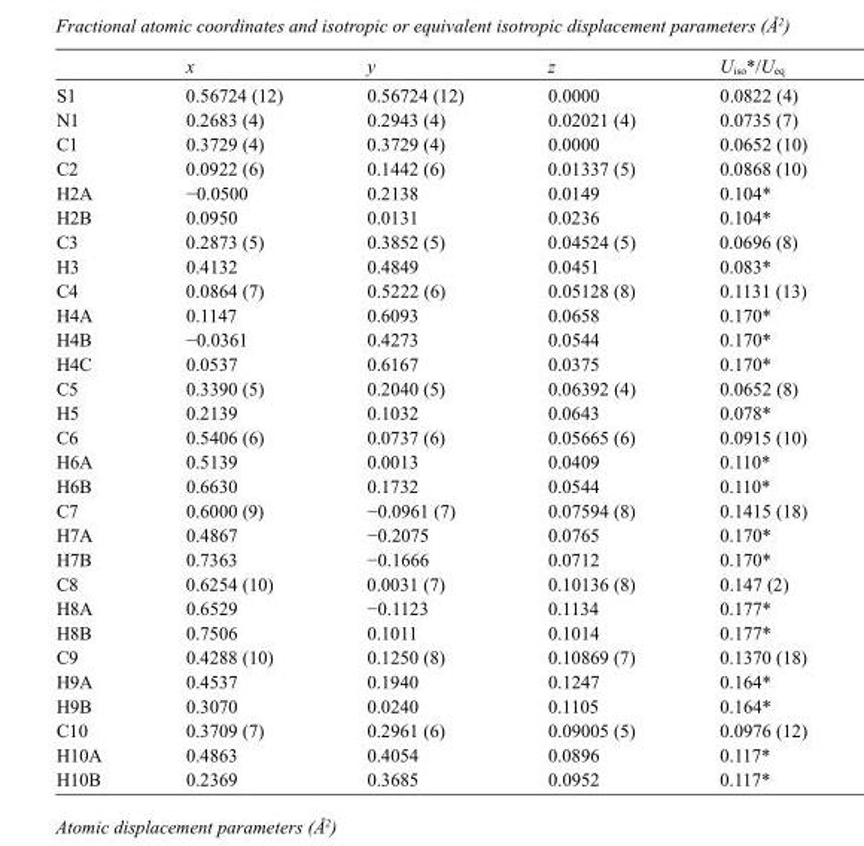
<table><thead><tr><td></td><td>x</td><td>y</td><td>z</td><td>U<sub>iso</sub>*/U<sub>eq</sub></td></tr></thead><tbody><tr><td>S1</td><td>0.56724 (12)</td><td>0.56724 (12)</td><td>0.0000</td><td>0.0822 (4)</td></tr><tr><td>N1</td><td>0.2683 (4)</td><td>0.2943 (4)</td><td>0.02021 (4)</td><td>0.0735 (7)</td></tr><tr><td>C1</td><td>0.3729 (4)</td><td>0.3729 (4)</td><td>0.0000</td><td>0.0652 (10)</td></tr><tr><td>C2</td><td>0.0922 (6)</td><td>0.1442 (6)</td><td>0.01337 (5)</td><td>0.0868 (10)</td></tr><tr><td>H2A</td><td>−0.0500</td><td>0.2138</td><td>0.0149</td><td>0.104*</td></tr><tr><td>H2B</td><td>0.0950</td><td>0.0131</td><td>0.0236</td><td>0.104*</td></tr><tr><td>C3</td><td>0.2873 (5)</td><td>0.3852 (5)</td><td>0.04524 (5)</td><td>0.0696 (8)</td></tr><tr><td>H3</td><td>0.4132</td><td>0.4849</td><td>0.0451</td><td>0.083*</td></tr><tr><td>C4</td><td>0.0864 (7)</td><td>0.5222 (6)</td><td>0.05128 (8)</td><td>0.1131 (13)</td></tr><tr><td>H4A</td><td>0.1147</td><td>0.6093</td><td>0.0658</td><td>0.170*</td></tr><tr><td>H4B</td><td>−0.0361</td><td>0.4273</td><td>0.0544</td><td>0.170*</td></tr><tr><td>H4C</td><td>0.0537</td><td>0.6167</td><td>0.0375</td><td>0.170*</td></tr><tr><td>C5</td><td>0.3390 (5)</td><td>0.2040 (5)</td><td>0.06392 (4)</td><td>0.0652 (8)</td></tr><tr><td>H5</td><td>0.2139</td><td>0.1032</td><td>0.0643</td><td>0.078*</td></tr><tr><td>C6</td><td>0.5406 (6)</td><td>0.0737 (6)</td><td>0.05665 (6)</td><td>0.0915 (10)</td></tr><tr><td>H6A</td><td>0.5139</td><td>0.0013</td><td>0.0409</td><td>0.110*</td></tr><tr><td>H6B</td><td>0.6630</td><td>0.1732</td><td>0.0544</td><td>0.110*</td></tr><tr><td>C7</td><td>0.6000 (9)</td><td>−0.0961 (7)</td><td>0.07594 (8)</td><td>0.1415 (18)</td></tr><tr><td>H7A</td><td>0.4867</td><td>−0.2075</td><td>0.0765</td><td>0.170*</td></tr><tr><td>H7B</td><td>0.7363</td><td>−0.1666</td><td>0.0712</td><td>0.170*</td></tr><tr><td>C8</td><td>0.6254 (10)</td><td>0.0031 (7)</td><td>0.10136 (8)</td><td>0.147 (2)</td></tr><tr><td>H8A</td><td>0.6529</td><td>−0.1123</td><td>0.1134</td><td>0.177*</td></tr><tr><td>H8B</td><td>0.7506</td><td>0.1011</td><td>0.1014</td><td>0.177*</td></tr><tr><td>C9</td><td>0.4288 (10)</td><td>0.1250 (8)</td><td>0.10869 (7)</td><td>0.1370 (18)</td></tr><tr><td>H9A</td><td>0.4537</td><td>0.1940</td><td>0.1247</td><td>0.164*</td></tr><tr><td>H9B</td><td>0.3070</td><td>0.0240</td><td>0.1105</td><td>0.164*</td></tr><tr><td>C10</td><td>0.3709 (7)</td><td>0.2961 (6)</td><td>0.09005 (5)</td><td>0.0976 (12)</td></tr><tr><td>H10A</td><td>0.4863</td><td>0.4054</td><td>0.0896</td><td>0.117*</td></tr><tr><td>H10B</td><td>0.2369</td><td>0.3685</td><td>0.0952</td><td>0.117*</td></tr></tbody></table>